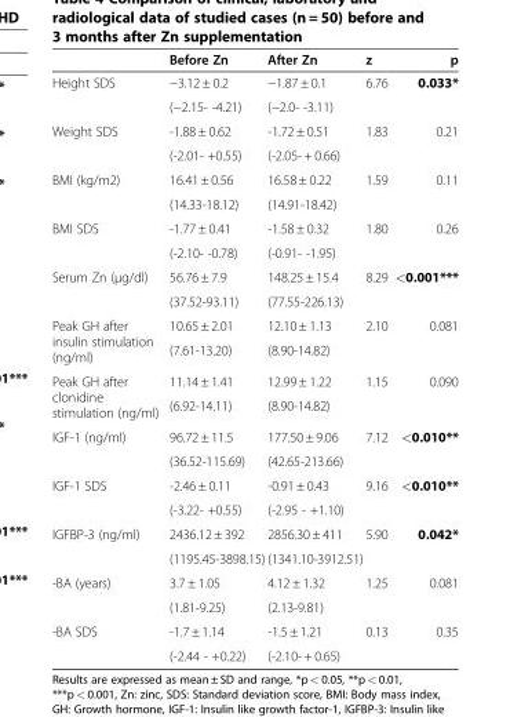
<table><thead><tr><td></td><td>Before Zn</td><td>After Zn</td><td>z</td><td>p</td></tr></thead><tbody><tr><td rowspan="2">Height SDS</td><td>−3.12 ± 0.2</td><td>−1.87 ± 0.1</td><td>6.76</td><td>0.033*</td></tr><tr><td>(−2.15- -4.21)</td><td>(−2.0- -3.11)</td><td></td><td></td></tr><tr><td rowspan="2">Weight SDS</td><td>-1.88 ± 0.62</td><td>-1.72 ± 0.51</td><td>1.83</td><td>0.21</td></tr><tr><td>(-2.01- +0.55)</td><td>(-2.05- + 0.66)</td><td></td><td></td></tr><tr><td rowspan="2">BMI (kg/m2)</td><td>16.41 ± 0.56</td><td>16.58 ± 0.22</td><td>1.59</td><td>0.11</td></tr><tr><td>(14.33-18.12)</td><td>(14.91-18.42)</td><td></td><td></td></tr><tr><td rowspan="2">BMI SDS</td><td>-1.77 ± 0.41</td><td>-1.58 ± 0.32</td><td>1.80</td><td>0.26</td></tr><tr><td>(-2.10- -0.78)</td><td>(-0.91- -1.95)</td><td></td><td></td></tr><tr><td rowspan="2">Serum Zn (μg/dl)</td><td>56.76 ± 7.9</td><td>148.25 ± 15.4</td><td>8.29</td><td>&lt;0.001***</td></tr><tr><td>(37.52-93.11)</td><td>(77.55-226.13)</td><td></td><td></td></tr><tr><td rowspan="2">Peak GH after insulin stimulation (ng/ml)</td><td>10.65 ± 2.01</td><td>12.10 ± 1.13</td><td>2.10</td><td>0.081</td></tr><tr><td>(7.61-13.20)</td><td>(8.90-14.82)</td><td></td><td></td></tr><tr><td rowspan="2">Peak GH after clonidine stimulation (ng/ml)</td><td>11.14 ± 1.41</td><td>12.99 ± 1.22</td><td>1.15</td><td>0.090</td></tr><tr><td>(6.92-14.11)</td><td>(8.90-14.82)</td><td></td><td></td></tr><tr><td rowspan="2">IGF-1 (ng/ml)</td><td>96.72 ± 11.5</td><td>177.50 ± 9.06</td><td>7.12</td><td>&lt;0.010**</td></tr><tr><td>(36.52-115.69)</td><td>(42.65-213.66)</td><td></td><td></td></tr><tr><td rowspan="2">IGF-1 SDS</td><td>-2.46 ± 0.11</td><td>-0.91 ± 0.43</td><td>9.16</td><td>&lt;0.010**</td></tr><tr><td>(-3.22- +0.55)</td><td>(-2.95 - +1.10)</td><td></td><td></td></tr><tr><td rowspan="2">IGFBP-3 (ng/ml)</td><td>2436.12 ± 392</td><td>2856.30 ± 411</td><td>5.90</td><td>0.042*</td></tr><tr><td>(1195.45-3898.15)</td><td>(1341.10-3912.51)</td><td></td><td></td></tr><tr><td rowspan="2">-BA (years)</td><td>3.7 ± 1.05</td><td>4.12 ± 1.32</td><td>1.25</td><td>0.081</td></tr><tr><td>(1.81-9.25)</td><td>(2.13-9.81)</td><td></td><td></td></tr><tr><td rowspan="2">-BA SDS</td><td>-1.7 ± 1.14</td><td>-1.5 ± 1.21</td><td>0.13</td><td>0.35</td></tr><tr><td>(-2.44 - +0.22)</td><td>(-2.10- + 0.65)</td><td></td><td></td></tr></tbody></table>